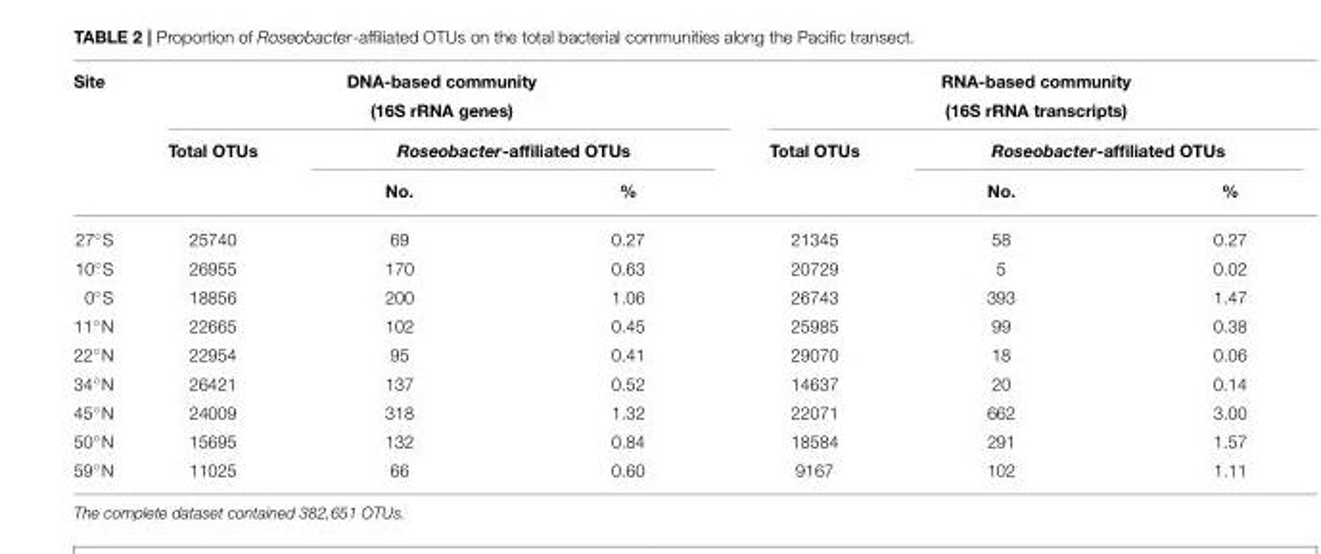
<table><thead><tr><td rowspan="3">Site</td><td colspan="3">DNA-based community (16S rRNA genes)</td><td colspan="3">RNA-based community (16S rRNA transcripts)</td></tr><tr><td rowspan="2">Total OTUs</td><td colspan="2">Roseobacter-affiliated OTUs</td><td rowspan="2">Total OTUs</td><td colspan="2">Roseobacter-affiliated OTUs</td></tr><tr><td>No.</td><td>%</td><td>No.</td><td>%</td></tr></thead><tbody><tr><td>27◦S</td><td>25740</td><td>69</td><td>0.27</td><td>21345</td><td>58</td><td>0.27</td></tr><tr><td>10◦S</td><td>26955</td><td>170</td><td>0.63</td><td>20729</td><td>5</td><td>0.02</td></tr><tr><td>0◦S</td><td>18856</td><td>200</td><td>1.06</td><td>26743</td><td>393</td><td>1.47</td></tr><tr><td>11◦N</td><td>22665</td><td>102</td><td>0.45</td><td>25985</td><td>99</td><td>0.38</td></tr><tr><td>22◦N</td><td>22954</td><td>95</td><td>0.41</td><td>29070</td><td>18</td><td>0.06</td></tr><tr><td>34◦N</td><td>26421</td><td>137</td><td>0.52</td><td>14637</td><td>20</td><td>0.14</td></tr><tr><td>45◦N</td><td>24009</td><td>318</td><td>1.32</td><td>22071</td><td>662</td><td>3.00</td></tr><tr><td>50◦N</td><td>15695</td><td>132</td><td>0.84</td><td>18584</td><td>291</td><td>1.57</td></tr><tr><td>59◦N</td><td>11025</td><td>66</td><td>0.60</td><td>9167</td><td>102</td><td>1.11</td></tr></tbody></table>